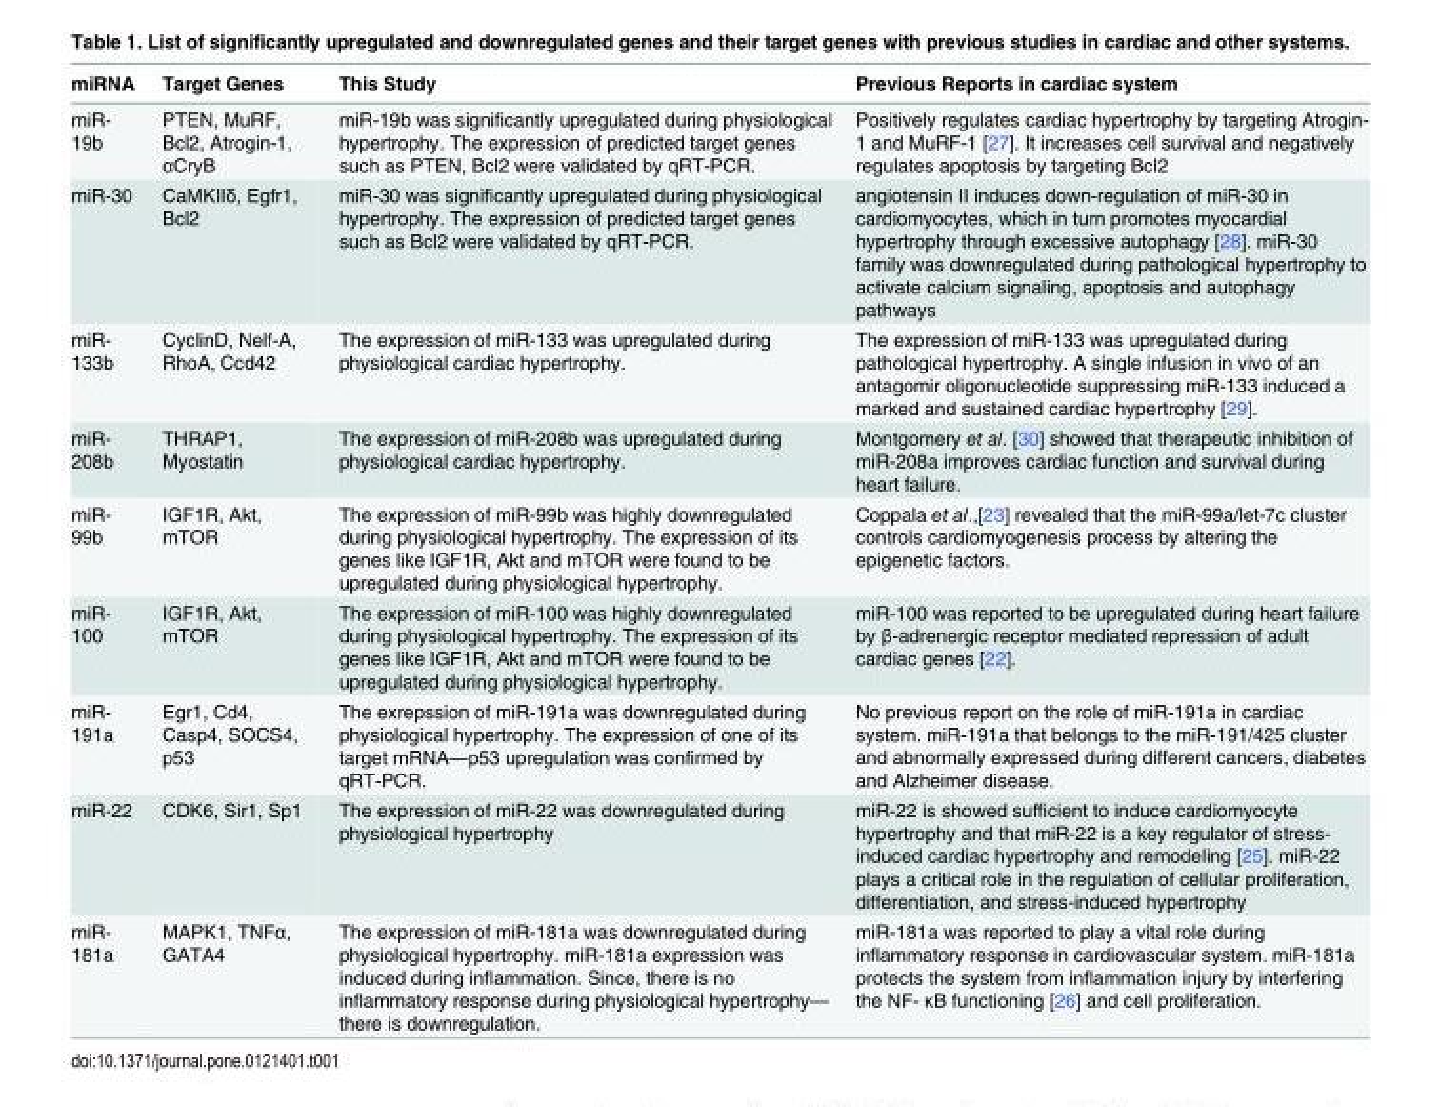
<table><thead><tr><td>miRNA</td><td>Target Genes</td><td>This Study</td><td>Previous Reports in cardiac system</td></tr></thead><tbody><tr><td>miR- 19b</td><td>PTEN, MuRF, Bcl2, Atrogin-1, αCryB</td><td>miR-19b was significantly upregulated during physiological hypertrophy. The expression of predicted target genes such as PTEN, Bcl2 were validated by qRT-PCR.</td><td>Positively regulates cardiac hypertrophy by targeting Atrogin- 1 and MuRF-1 [27]. It increases cell survival and negatively regulates apoptosis by targeting Bcl2</td></tr><tr><td>miR-30</td><td>CaMKIIδ, Egfr1, Bcl2</td><td>miR-30 was significantly upregulated during physiological hypertrophy. The expression of predicted target genes such as Bcl2 were validated by qRT-PCR.</td><td>angiotensin II induces down-regulation of miR-30 in cardiomyocytes, which in turn promotes myocardial hypertrophy through excessive autophagy [28]. miR-30 family was downregulated during pathological hypertrophy to activate calcium signaling, apoptosis and autophagy pathways</td></tr><tr><td>miR- 133b</td><td>CyclinD, Nelf-A, RhoA, Ccd42</td><td>The expression of miR-133 was upregulated during physiological cardiac hypertrophy.</td><td>The expression of miR-133 was upregulated during pathological hypertrophy. A single infusion in vivo of an antagomir oligonucleotide suppressing miR-133 induced a marked and sustained cardiac hypertrophy [29].</td></tr><tr><td>miR- 208b</td><td>THRAP1, Myostatin</td><td>The expression of miR-208b was upregulated during physiological cardiac hypertrophy.</td><td>Montgomery et al. [30] showed that therapeutic inhibition of miR-208a improves cardiac function and survival during heart failure.</td></tr><tr><td>miR- 99b</td><td>IGF1R, Akt, mTOR</td><td>The expression of miR-99b was highly downregulated during physiological hypertrophy. The expression of its genes like IGF1R, Akt and mTOR were found to be upregulated during physiological hypertrophy.</td><td>Coppala et al.,[23] revealed that the miR-99a/let-7c cluster controls cardiomyogenesis process by altering the epigenetic factors.</td></tr><tr><td>miR- 100</td><td>IGF1R, Akt, mTOR</td><td>The expression of miR-100 was highly downregulated during physiological hypertrophy. The expression of its genes like IGF1R, Akt and mTOR were found to be upregulated during physiological hypertrophy.</td><td>miR-100 was reported to be upregulated during heart failure by β-adrenergic receptor mediated repression of adult cardiac genes [22].</td></tr><tr><td>miR- 191a</td><td>Egr1, Cd4, Casp4, SOCS4, p53</td><td>The exrepssion of miR-191a was downregulated during physiological hypertrophy. The expression of one of its target mRNA—p53 upregulation was confirmed by qRT-PCR.</td><td>No previous report on the role of miR-191a in cardiac system. miR-191a that belongs to the miR-191/425 cluster and abnormally expressed during different cancers, diabetes and Alzheimer disease.</td></tr><tr><td>miR-22</td><td>CDK6, Sir1, Sp1</td><td>The expression of miR-22 was downregulated during physiological hypertrophy</td><td>miR-22 is showed sufficient to induce cardiomyocyte hypertrophy and that miR-22 is a key regulator of stress- induced cardiac hypertrophy and remodeling [25]. miR-22 plays a critical role in the regulation of cellular proliferation, differentiation, and stress-induced hypertrophy</td></tr><tr><td>miR- 181a</td><td>MAPK1, TNFα, GATA4</td><td>The expression of miR-181a was downregulated during physiological hypertrophy. miR-181a expression was induced during inflammation. Since, there is no inflammatory response during physiological hypertrophy— there is downregulation.</td><td>miR-181a was reported to play a vital role during inflammatory response in cardiovascular system. miR-181a protects the system from inflammation injury by interfering the NF- κB functioning [26] and cell proliferation.</td></tr></tbody></table>